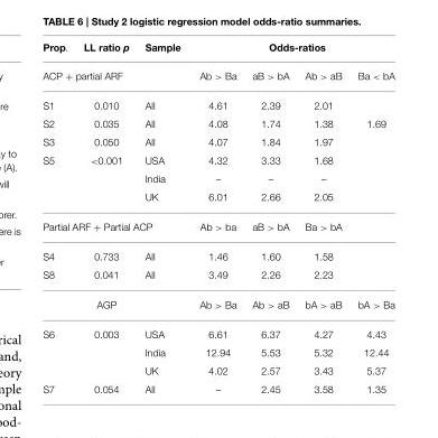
<table><thead><tr><td>Prop.</td><td>LL ratio p</td><td>Sample</td><td colspan="4">Odds-ratios</td></tr><tr><td colspan="3">ACP + partial ARF</td><td>Ab &gt; Ba</td><td>aB &gt; bA</td><td>Ab &gt; aB</td><td>Ba &lt; bA</td></tr></thead><tbody><tr><td>S1</td><td>0.010</td><td>All</td><td>4.61</td><td>2.39</td><td>2.01</td><td></td></tr><tr><td>S2</td><td>0.035</td><td>All</td><td>4.08</td><td>1.74</td><td>1.38</td><td>1.69</td></tr><tr><td>S3</td><td>0.050</td><td>All</td><td>4.07</td><td>1.84</td><td>1.97</td><td></td></tr><tr><td rowspan="3">S5</td><td>&lt;0.001</td><td>USA</td><td>4.32</td><td>3.33</td><td>1.68</td><td></td></tr><tr><td></td><td>India</td><td>–</td><td>–</td><td>–</td><td></td></tr><tr><td></td><td>UK</td><td>6.01</td><td>2.66</td><td>2.05</td><td></td></tr><tr><td colspan="3">Partial ARF + Partial ACP</td><td>Ab &gt; ba</td><td>aB &gt; bA</td><td>Ba &gt; bA</td><td></td></tr><tr><td>S4</td><td>0.733</td><td>All</td><td>1.46</td><td>1.60</td><td>1.58</td><td></td></tr><tr><td rowspan="2">S8</td><td>0.041</td><td>All</td><td>3.49</td><td>2.26</td><td>2.23</td><td></td></tr><tr><td>AGP</td><td></td><td>Ab &gt; Ba</td><td>Ab &gt; aB</td><td>bA &gt; aB</td><td>bA &gt; Ba</td></tr><tr><td rowspan="3">S6</td><td>0.003</td><td>USA</td><td>6.61</td><td>6.37</td><td>4.27</td><td>4.43</td></tr><tr><td></td><td>India</td><td>12.94</td><td>5.53</td><td>5.32</td><td>12.44</td></tr><tr><td></td><td>UK</td><td>4.02</td><td>2.57</td><td>3.43</td><td>5.37</td></tr><tr><td>S7</td><td>0.054</td><td>All</td><td>–</td><td>2.45</td><td>3.58</td><td>1.35</td></tr></tbody></table>